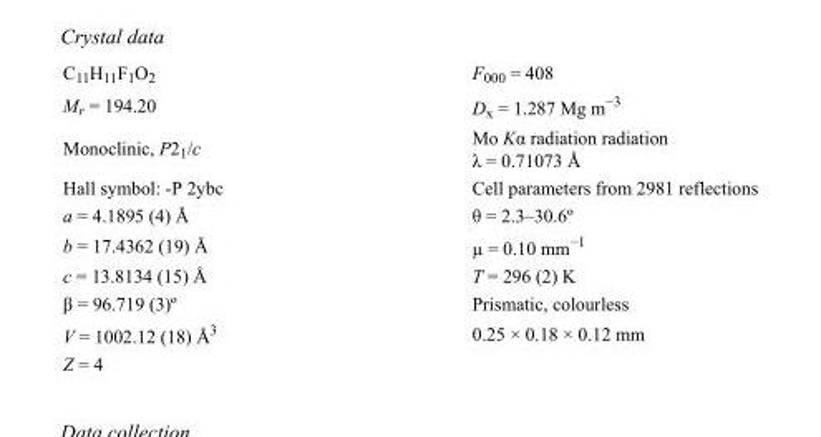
<table><tbody><tr><td>C<sub>11</sub>H<sub>11</sub>F<sub>1</sub>O<sub>2</sub></td><td>F<sub>000</sub> = 408</td></tr><tr><td>M<sub>r</sub> = 194.20</td><td>D<sub>x</sub> = 1.287 Mg m<sup>−3</sup></td></tr><tr><td>Monoclinic, P2<sub>1</sub>/c</td><td>Mo Kα radiation radiation λ = 0.71073 Å</td></tr><tr><td>Hall symbol: -P 2ybc</td><td>Cell parameters from 2981 reflections</td></tr><tr><td>a = 4.1895 (4) Å</td><td>θ = 2.3–30.6º</td></tr><tr><td>b = 17.4362 (19) Å</td><td>µ = 0.10 mm<sup>−1</sup></td></tr><tr><td>c = 13.8134 (15) Å</td><td>T = 296 (2) K</td></tr><tr><td>β = 96.719 (3)º</td><td>Prismatic, colourless</td></tr><tr><td>V = 1002.12 (18) Å<sup>3</sup></td><td>0.25 × 0.18 × 0.12 mm</td></tr><tr><td>Z = 4</td><td></td></tr></tbody></table>